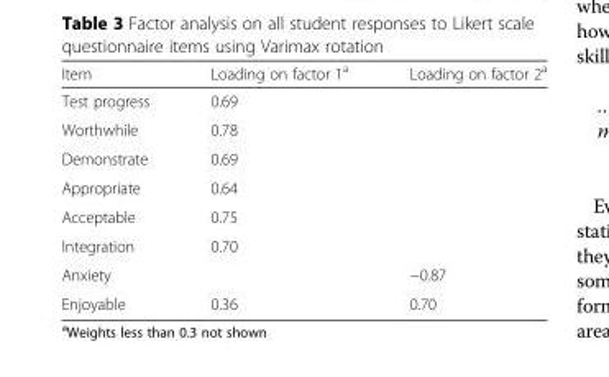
<table><thead><tr><td>Item</td><td>Loading on factor 1<sup>a</sup></td><td>Loading on factor 2<sup>a</sup></td></tr></thead><tbody><tr><td>Test progress</td><td>0.69</td><td></td></tr><tr><td>Worthwhile</td><td>0.78</td><td></td></tr><tr><td>Demonstrate</td><td>0.69</td><td></td></tr><tr><td>Appropriate</td><td>0.64</td><td></td></tr><tr><td>Acceptable</td><td>0.75</td><td></td></tr><tr><td>Integration</td><td>0.70</td><td></td></tr><tr><td>Anxiety</td><td></td><td>−0.87</td></tr><tr><td>Enjoyable</td><td>0.36</td><td>0.70</td></tr></tbody></table>